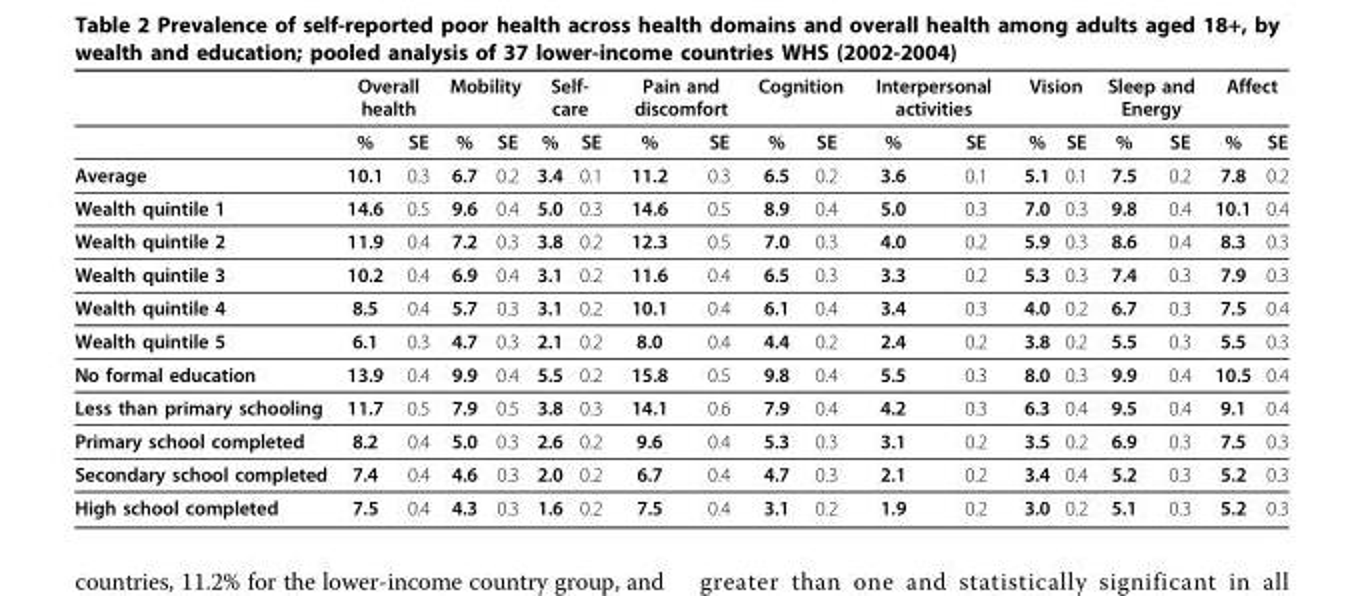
<table><thead><tr><td rowspan="2"></td><td colspan="2">Overall health</td><td colspan="2">Mobility</td><td colspan="2">Self- care</td><td colspan="2">Pain and discomfort</td><td colspan="2">Cognition</td><td colspan="2">Interpersonal activities</td><td colspan="2">Vision</td><td colspan="2">Sleep and Energy</td><td colspan="2">Affect</td></tr><tr><td>%</td><td>SE</td><td>%</td><td>SE</td><td>%</td><td>SE</td><td>%</td><td>SE</td><td>%</td><td>SE</td><td>%</td><td>SE</td><td>%</td><td>SE</td><td>%</td><td>SE</td><td>%</td><td>SE</td></tr></thead><tbody><tr><td>Average</td><td>10.1</td><td>0.3</td><td>6.7</td><td>0.2</td><td>3.4</td><td>0.1</td><td>11.2</td><td>0.3</td><td>6.5</td><td>0.2</td><td>3.6</td><td>0.1</td><td>5.1</td><td>0.1</td><td>7.5</td><td>0.2</td><td>7.8</td><td>0.2</td></tr><tr><td>Wealth quintile 1</td><td>14.6</td><td>0.5</td><td>9.6</td><td>0.4</td><td>5.0</td><td>0.3</td><td>14.6</td><td>0.5</td><td>8.9</td><td>0.4</td><td>5.0</td><td>0.3</td><td>7.0</td><td>0.3</td><td>9.8</td><td>0.4</td><td>10.1</td><td>0.4</td></tr><tr><td>Wealth quintile 2</td><td>11.9</td><td>0.4</td><td>7.2</td><td>0.3</td><td>3.8</td><td>0.2</td><td>12.3</td><td>0.5</td><td>7.0</td><td>0.3</td><td>4.0</td><td>0.2</td><td>5.9</td><td>0.3</td><td>8.6</td><td>0.4</td><td>8.3</td><td>0.3</td></tr><tr><td>Wealth quintile 3</td><td>10.2</td><td>0.4</td><td>6.9</td><td>0.4</td><td>3.1</td><td>0.2</td><td>11.6</td><td>0.4</td><td>6.5</td><td>0.3</td><td>3.3</td><td>0.2</td><td>5.3</td><td>0.3</td><td>7.4</td><td>0.3</td><td>7.9</td><td>0.3</td></tr><tr><td>Wealth quintile 4</td><td>8.5</td><td>0.4</td><td>5.7</td><td>0.3</td><td>3.1</td><td>0.2</td><td>10.1</td><td>0.4</td><td>6.1</td><td>0.4</td><td>3.4</td><td>0.3</td><td>4.0</td><td>0.2</td><td>6.7</td><td>0.3</td><td>7.5</td><td>0.4</td></tr><tr><td>Wealth quintile 5</td><td>6.1</td><td>0.3</td><td>4.7</td><td>0.3</td><td>2.1</td><td>0.2</td><td>8.0</td><td>0.4</td><td>4.4</td><td>0.2</td><td>2.4</td><td>0.2</td><td>3.8</td><td>0.2</td><td>5.5</td><td>0.3</td><td>5.5</td><td>0.3</td></tr><tr><td>No formal education</td><td>13.9</td><td>0.4</td><td>9.9</td><td>0.4</td><td>5.5</td><td>0.2</td><td>15.8</td><td>0.5</td><td>9.8</td><td>0.4</td><td>5.5</td><td>0.3</td><td>8.0</td><td>0.3</td><td>9.9</td><td>0.4</td><td>10.5</td><td>0.4</td></tr><tr><td>Less than primary schooling</td><td>11.7</td><td>0.5</td><td>7.9</td><td>0.5</td><td>3.8</td><td>0.3</td><td>14.1</td><td>0.6</td><td>7.9</td><td>0.4</td><td>4.2</td><td>0.3</td><td>6.3</td><td>0.4</td><td>9.5</td><td>0.4</td><td>9.1</td><td>0.4</td></tr><tr><td>Primary school completed</td><td>8.2</td><td>0.4</td><td>5.0</td><td>0.3</td><td>2.6</td><td>0.2</td><td>9.6</td><td>0.4</td><td>5.3</td><td>0.3</td><td>3.1</td><td>0.2</td><td>3.5</td><td>0.2</td><td>6.9</td><td>0.3</td><td>7.5</td><td>0.3</td></tr><tr><td>Secondary school completed</td><td>7.4</td><td>0.4</td><td>4.6</td><td>0.3</td><td>2.0</td><td>0.2</td><td>6.7</td><td>0.4</td><td>4.7</td><td>0.3</td><td>2.1</td><td>0.2</td><td>3.4</td><td>0.4</td><td>5.2</td><td>0.3</td><td>5.2</td><td>0.3</td></tr><tr><td>High school completed</td><td>7.5</td><td>0.4</td><td>4.3</td><td>0.3</td><td>1.6</td><td>0.2</td><td>7.5</td><td>0.4</td><td>3.1</td><td>0.2</td><td>1.9</td><td>0.2</td><td>3.0</td><td>0.2</td><td>5.1</td><td>0.3</td><td>5.2</td><td>0.3</td></tr></tbody></table>